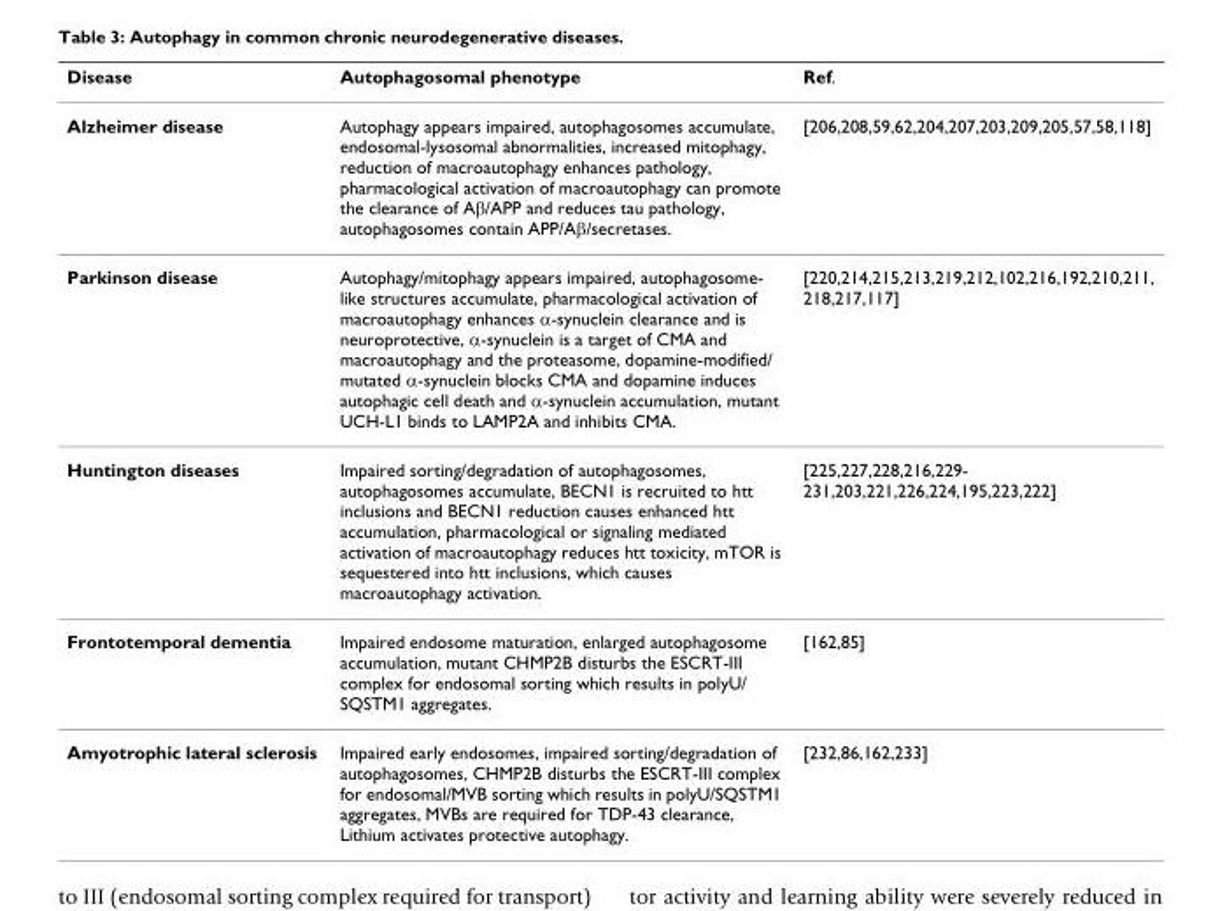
<table><thead><tr><td>Disease</td><td>Autophagosomal phenotype</td><td>Ref.</td></tr></thead><tbody><tr><td>Alzheimer disease</td><td>Autophagy appears impaired, autophagosomes accumulate, endosomal-lysosomal abnormalities, increased mitophagy, reduction of macroautophagy enhances pathology, pharmacological activation of macroautophagy can promote the clearance of Aβ/APP and reduces tau pathology, autophagosomes contain APP/Aβ/secretases.</td><td>[206,208,59,62,204,207,203,209,205,57,58,118]</td></tr><tr><td>Parkinson disease</td><td>Autophagy/mitophagy appears impaired, autophagosome- like structures accumulate, pharmacological activation of macroautophagy enhances α-synuclein clearance and is neuroprotective, α-synuclein is a target of CMA and macroautophagy and the proteasome, dopamine-modified/ mutated α-synuclein blocks CMA and dopamine induces autophagic cell death and α-synuclein accumulation, mutant UCH-L1 binds to LAMP2A and inhibits CMA.</td><td>[220,214,215,213,219,212,102,216,192,210,211, 218,217,117]</td></tr><tr><td>Huntington diseases</td><td>Impaired sorting/degradation of autophagosomes, autophagosomes accumulate, BECN1 is recruited to htt inclusions and BECN1 reduction causes enhanced htt accumulation, pharmacological or signaling mediated activation of macroautophagy reduces htt toxicity, mTOR is sequestered into htt inclusions, which causes macroautophagy activation.</td><td>[225,227,228,216,229- 231,203,221,226,224,195,223,222]</td></tr><tr><td>Frontotemporal dementia</td><td>Impaired endosome maturation, enlarged autophagosome accumulation, mutant CHMP2B disturbs the ESCRT-III complex for endosomal sorting which results in polyU/ SQSTM1 aggregates.</td><td>[162,85]</td></tr><tr><td>Amyotrophic lateral sclerosis</td><td>Impaired early endosomes, impaired sorting/degradation of autophagosomes, CHMP2B disturbs the ESCRT-III complex for endosomal/MVB sorting which results in polyU/SQSTM1 aggregates, MVBs are required for TDP-43 clearance, Lithium activates protective autophagy.</td><td>[232,86,162,233]</td></tr></tbody></table>